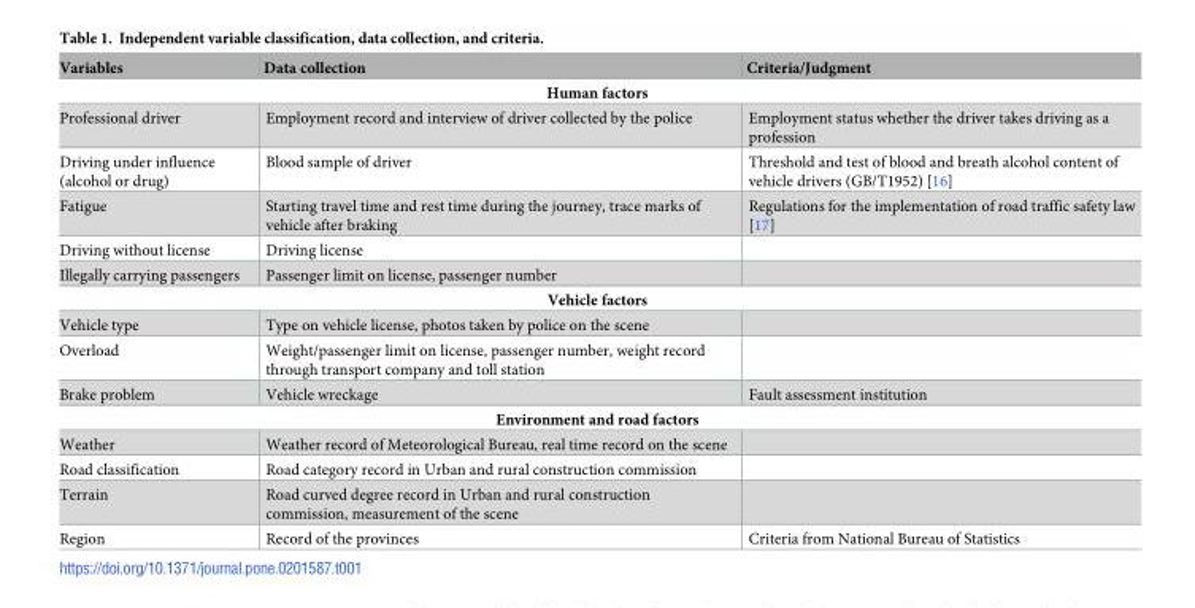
<table><thead><tr><td>Variables</td><td>Data collection</td><td>Criteria/Judgment</td></tr></thead><tbody><tr><td colspan="3">Human factors</td></tr><tr><td>Professional driver</td><td>Employment record and interview of driver collected by the police</td><td>Employment status whether the driver takes driving as a profession</td></tr><tr><td>Driving under influence (alcohol or drug)</td><td>Blood sample of driver</td><td>Threshold and test of blood and breath alcohol content of vehicle drivers (GB/T1952) [16]</td></tr><tr><td>Fatigue</td><td>Starting travel time and rest time during the journey, trace marks of vehicle after braking</td><td>Regulations for the implementation of road traffic safety law [17]</td></tr><tr><td>Driving without license</td><td>Driving license</td><td></td></tr><tr><td>Illegally carrying passengers</td><td>Passenger limit on license, passenger number</td><td></td></tr><tr><td colspan="3">Vehicle factors</td></tr><tr><td>Vehicle type</td><td>Type on vehicle license, photos taken by police on the scene</td><td></td></tr><tr><td>Overload</td><td>Weight/passenger limit on license, passenger number, weight record through transport company and toll station</td><td></td></tr><tr><td>Brake problem</td><td>Vehicle wreckage</td><td>Fault assessment institution</td></tr><tr><td colspan="3">Environment and road factors</td></tr><tr><td>Weather</td><td>Weather record of Meteorological Bureau, real time record on the scene</td><td></td></tr><tr><td>Road classification</td><td>Road category record in Urban and rural construction commission</td><td></td></tr><tr><td>Terrain</td><td>Road curved degree record in Urban and rural construction commission, measurement of the scene</td><td></td></tr><tr><td>Region</td><td>Record of the provinces</td><td>Criteria from National Bureau of Statistics</td></tr></tbody></table>